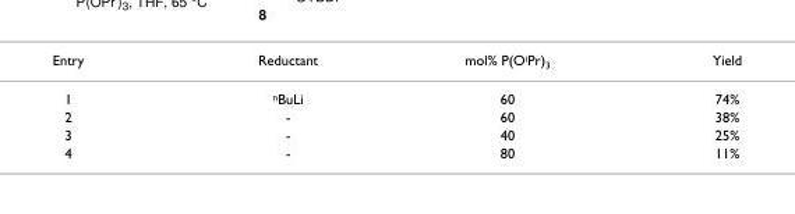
<table><tbody><tr><td>Entry</td><td>Reductant</td><td>mol% P(O<sup>i</sup>Pr)<sub>3</sub></td><td>Yield</td></tr><tr><td>1</td><td><sup>n</sup>BuLi</td><td>60</td><td>74%</td></tr><tr><td>2</td><td>-</td><td>60</td><td>38%</td></tr><tr><td>3</td><td>-</td><td>40</td><td>25%</td></tr><tr><td>4</td><td>-</td><td>80</td><td>11%</td></tr></tbody></table>